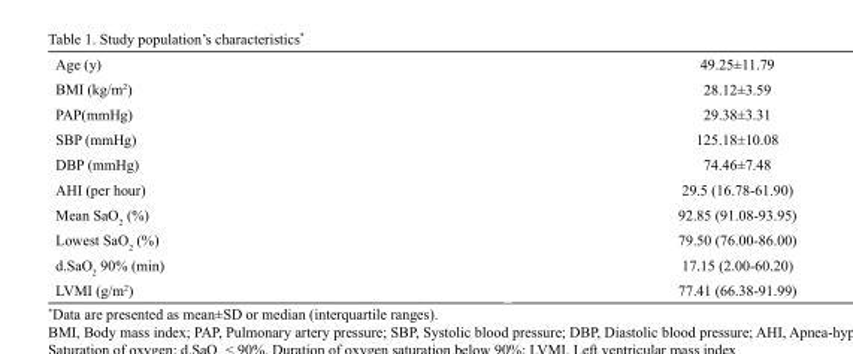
<table><tbody><tr><td>Age (y)</td><td>49.25±11.79</td></tr><tr><td>BMI (kg/m<sup>2</sup>)</td><td>28.12±3.59</td></tr><tr><td>PAP(mmHg)</td><td>29.38±3.31</td></tr><tr><td>SBP (mmHg)</td><td>125.18±10.08</td></tr><tr><td>DBP (mmHg)</td><td>74.46±7.48</td></tr><tr><td>AHI (per hour)</td><td>29.5 (16.78-61.90)</td></tr><tr><td>Mean SaO<sub>2</sub> (%)</td><td>92.85 (91.08-93.95)</td></tr><tr><td>Lowest SaO<sub>2</sub> (%)</td><td>79.50 (76.00-86.00)</td></tr><tr><td>d.SaO<sub>2</sub> 90% (min)</td><td>17.15 (2.00-60.20)</td></tr><tr><td>LVMI (g/m<sup>2</sup>)</td><td>77.41 (66.38-91.99)</td></tr></tbody></table>